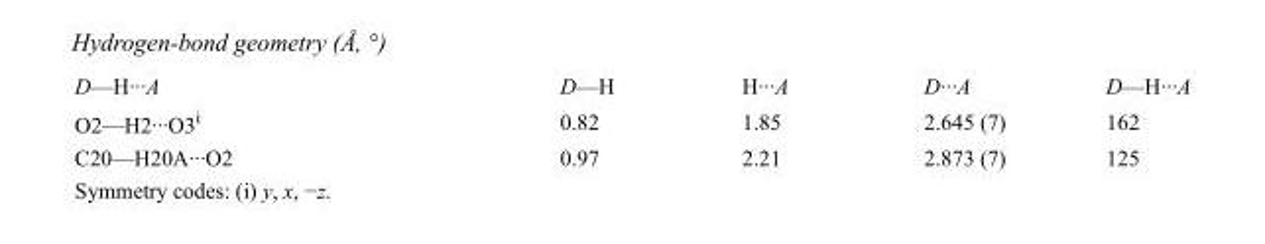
<table><tbody><tr><td>D—H···A</td><td>D—H</td><td>H···A</td><td>D···A</td><td>D—H···A</td></tr><tr><td>O2—H2···O3<sup>i</sup></td><td>0.82</td><td>1.85</td><td>2.645 (7)</td><td>162</td></tr><tr><td>C20—H20A···O2</td><td>0.97</td><td>2.21</td><td>2.873 (7)</td><td>125</td></tr></tbody></table>